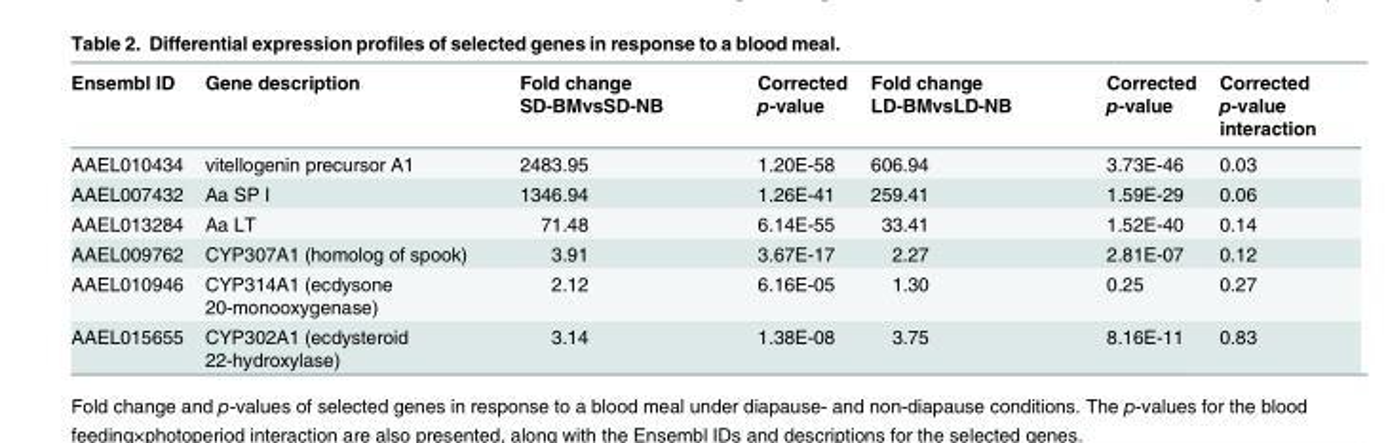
<table><thead><tr><td>Ensembl ID</td><td>Gene description</td><td>Fold change SD-BMvsSD-NB</td><td>Corrected p-value</td><td>Fold change LD-BMvsLD-NB</td><td>Corrected p-value</td><td>Corrected p-value interaction</td></tr></thead><tbody><tr><td>AAEL010434</td><td>vitellogenin precursor A1</td><td>2483.95</td><td>1.20E-58</td><td>606.94</td><td>3.73E-46</td><td>0.03</td></tr><tr><td>AAEL007432</td><td>Aa SP I</td><td>1346.94</td><td>1.26E-41</td><td>259.41</td><td>1.59E-29</td><td>0.06</td></tr><tr><td>AAEL013284</td><td>Aa LT</td><td>71.48</td><td>6.14E-55</td><td>33.41</td><td>1.52E-40</td><td>0.14</td></tr><tr><td>AAEL009762</td><td>CYP307A1 (homolog of spook)</td><td>3.91</td><td>3.67E-17</td><td>2.27</td><td>2.81E-07</td><td>0.12</td></tr><tr><td>AAEL010946</td><td>CYP314A1 (ecdysone 20-monooxygenase)</td><td>2.12</td><td>6.16E-05</td><td>1.30</td><td>0.25</td><td>0.27</td></tr><tr><td>AAEL015655</td><td>CYP302A1 (ecdysteroid 22-hydroxylase)</td><td>3.14</td><td>1.38E-08</td><td>3.75</td><td>8.16E-11</td><td>0.83</td></tr></tbody></table>